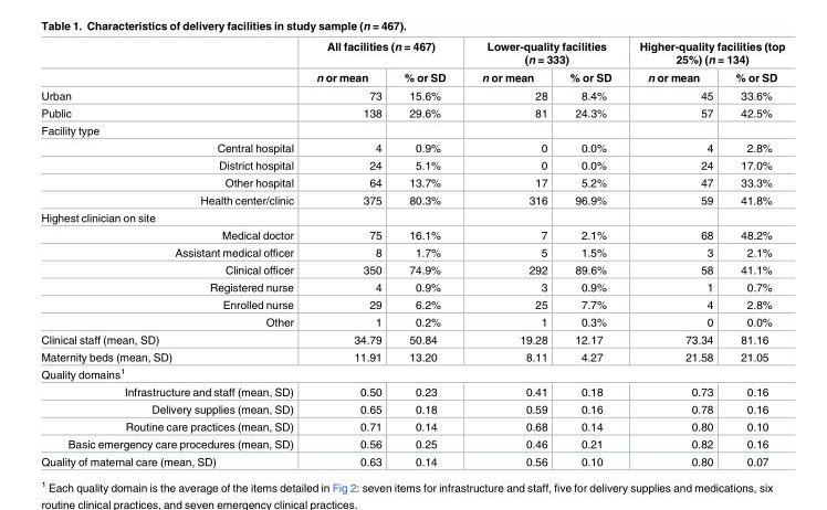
<table><thead><tr><td rowspan="2"></td><td colspan="2">All facilities (n = 467)</td><td colspan="2">Lower-quality facilities (n = 333)</td><td colspan="2">Higher-quality facilities (top 25%) (n = 134)</td></tr><tr><td>n or mean</td><td>% or SD</td><td>n or mean</td><td>% or SD</td><td>n or mean</td><td>% or SD</td></tr></thead><tbody><tr><td>Urban</td><td>73</td><td>15.6%</td><td>28</td><td>8.4%</td><td>45</td><td>33.6%</td></tr><tr><td>Public</td><td>138</td><td>29.6%</td><td>81</td><td>24.3%</td><td>57</td><td>42.5%</td></tr><tr><td colspan="7">Facility type</td></tr><tr><td>Central hospital</td><td>4</td><td>0.9%</td><td>0</td><td>0.0%</td><td>4</td><td>2.8%</td></tr><tr><td>District hospital</td><td>24</td><td>5.1%</td><td>0</td><td>0.0%</td><td>24</td><td>17.0%</td></tr><tr><td>Other hospital</td><td>64</td><td>13.7%</td><td>17</td><td>5.2%</td><td>47</td><td>33.3%</td></tr><tr><td>Health center/clinic</td><td>375</td><td>80.3%</td><td>316</td><td>96.9%</td><td>59</td><td>41.8%</td></tr><tr><td colspan="7">Highest clinician on site</td></tr><tr><td>Medical doctor</td><td>75</td><td>16.1%</td><td>7</td><td>2.1%</td><td>68</td><td>48.2%</td></tr><tr><td>Assistant medical officer</td><td>8</td><td>1.7%</td><td>5</td><td>1.5%</td><td>3</td><td>2.1%</td></tr><tr><td>Clinical officer</td><td>350</td><td>74.9%</td><td>292</td><td>89.6%</td><td>58</td><td>41.1%</td></tr><tr><td>Registered nurse</td><td>4</td><td>0.9%</td><td>3</td><td>0.9%</td><td>1</td><td>0.7%</td></tr><tr><td>Enrolled nurse</td><td>29</td><td>6.2%</td><td>25</td><td>7.7%</td><td>4</td><td>2.8%</td></tr><tr><td>Other</td><td>1</td><td>0.2%</td><td>1</td><td>0.3%</td><td>0</td><td>0.0%</td></tr><tr><td>Clinical staff (mean, SD)</td><td>34.79</td><td>50.84</td><td>19.28</td><td>12.17</td><td>73.34</td><td>81.16</td></tr><tr><td>Maternity beds (mean, SD)</td><td>11.91</td><td>13.20</td><td>8.11</td><td>4.27</td><td>21.58</td><td>21.05</td></tr><tr><td colspan="7">Quality domains<sup>1</sup></td></tr><tr><td>Infrastructure and staff (mean, SD)</td><td>0.50</td><td>0.23</td><td>0.41</td><td>0.18</td><td>0.73</td><td>0.16</td></tr><tr><td>Delivery supplies (mean, SD)</td><td>0.65</td><td>0.18</td><td>0.59</td><td>0.16</td><td>0.78</td><td>0.16</td></tr><tr><td>Routine care practices (mean, SD)</td><td>0.71</td><td>0.14</td><td>0.68</td><td>0.14</td><td>0.80</td><td>0.10</td></tr><tr><td>Basic emergency care procedures (mean, SD)</td><td>0.56</td><td>0.25</td><td>0.46</td><td>0.21</td><td>0.82</td><td>0.16</td></tr><tr><td>Quality of maternal care (mean, SD)</td><td>0.63</td><td>0.14</td><td>0.56</td><td>0.10</td><td>0.80</td><td>0.07</td></tr></tbody></table>